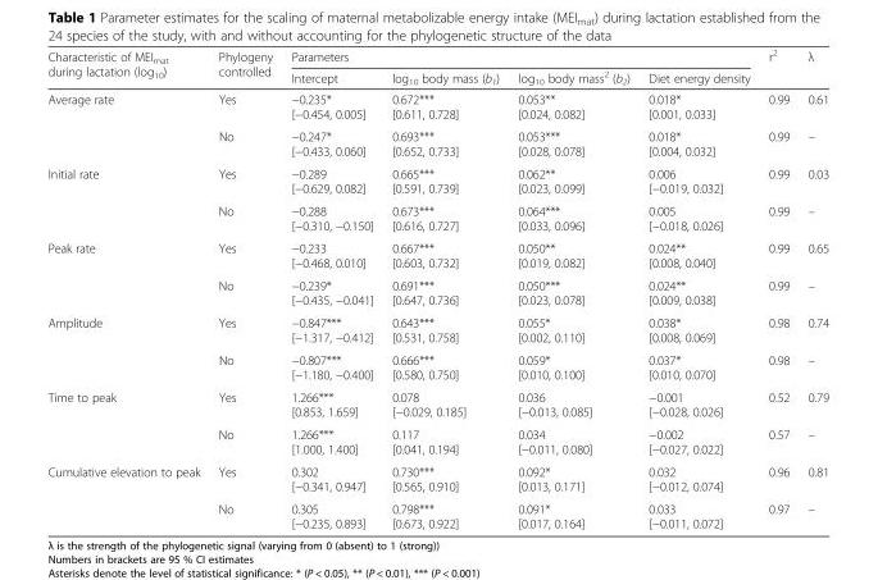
<table><thead><tr><td rowspan="2">Characteristic of MEI<sub>mat</sub> during lactation (log<sub>10</sub>)</td><td rowspan="2">Phylogeny controlled</td><td colspan="4">Parameters</td><td rowspan="2">r<sup>2</sup></td><td rowspan="2">λ</td></tr><tr><td>Intercept</td><td>log<sub>10</sub> body mass (b<sub>1</sub>)</td><td>log<sub>10</sub> body mass<sup>2</sup> (b<sub>2</sub>)</td><td>Diet energy density</td></tr></thead><tbody><tr><td rowspan="2">Average rate</td><td>Yes</td><td>−0.235* [−0.454, 0.005]</td><td>0.672*** [0.611, 0.728]</td><td>0.053** [0.024, 0.082]</td><td>0.018* [0.001, 0.033]</td><td>0.99</td><td>0.61</td></tr><tr><td>No</td><td>−0.247* [−0.433, 0.060]</td><td>0.693*** [0.652, 0.733]</td><td>0.053*** [0.028, 0.078]</td><td>0.018* [0.004, 0.032]</td><td>0.99</td><td>–</td></tr><tr><td rowspan="2">Initial rate</td><td>Yes</td><td>−0.289 [−0.629, 0.082]</td><td>0.665*** [0.591, 0.739]</td><td>0.062** [0.023, 0.099]</td><td>0.006 [−0.019, 0.032]</td><td>0.99</td><td>0.03</td></tr><tr><td>No</td><td>−0.288 [−0.310, −0.150]</td><td>0.673*** [0.616, 0.727]</td><td>0.064*** [0.033, 0.096]</td><td>0.005 [−0.018, 0.026]</td><td>0.99</td><td>–</td></tr><tr><td rowspan="2">Peak rate</td><td>Yes</td><td>−0.233 [−0.468, 0.010]</td><td>0.667*** [0.603, 0.732]</td><td>0.050** [0.019, 0.082]</td><td>0.024** [0.008, 0.040]</td><td>0.99</td><td>0.65</td></tr><tr><td>No</td><td>−0.239* [−0.435, −0.041]</td><td>0.691*** [0.647, 0.736]</td><td>0.050*** [0.023, 0.078]</td><td>0.024** [0.009, 0.038]</td><td>0.99</td><td>–</td></tr><tr><td rowspan="2">Amplitude</td><td>Yes</td><td>−0.847*** [−1.317, −0.412]</td><td>0.643*** [0.531, 0.758]</td><td>0.055* [0.002, 0.110]</td><td>0.038* [0.008, 0.069]</td><td>0.98</td><td>0.74</td></tr><tr><td>No</td><td>−0.807*** [−1.180, −0.400]</td><td>0.666*** [0.580, 0.750]</td><td>0.059* [0.010, 0.100]</td><td>0.037* [0.010, 0.070]</td><td>0.98</td><td>–</td></tr><tr><td rowspan="2">Time to peak</td><td>Yes</td><td>1.266*** [0.853, 1.659]</td><td>0.078 [−0.029, 0.185]</td><td>0.036 [−0.013, 0.085]</td><td>−0.001 [−0.028, 0.026]</td><td>0.52</td><td>0.79</td></tr><tr><td>No</td><td>1.266*** [1.000, 1.400]</td><td>0.117 [0.041, 0.194]</td><td>0.034 [−0.011, 0.080]</td><td>−0.002 [−0.027, 0.022]</td><td>0.57</td><td>–</td></tr><tr><td rowspan="2">Cumulative elevation to peak</td><td>Yes</td><td>0.302 [−0.341, 0.947]</td><td>0.730*** [0.565, 0.910]</td><td>0.092* [0.013, 0.171]</td><td>0.032 [−0.012, 0.074]</td><td>0.96</td><td>0.81</td></tr><tr><td>No</td><td>0.305 [−0.235, 0.893]</td><td>0.798*** [0.673, 0.922]</td><td>0.091* [0.017, 0.164]</td><td>0.033 [−0.011, 0.072]</td><td>0.97</td><td>–</td></tr></tbody></table>